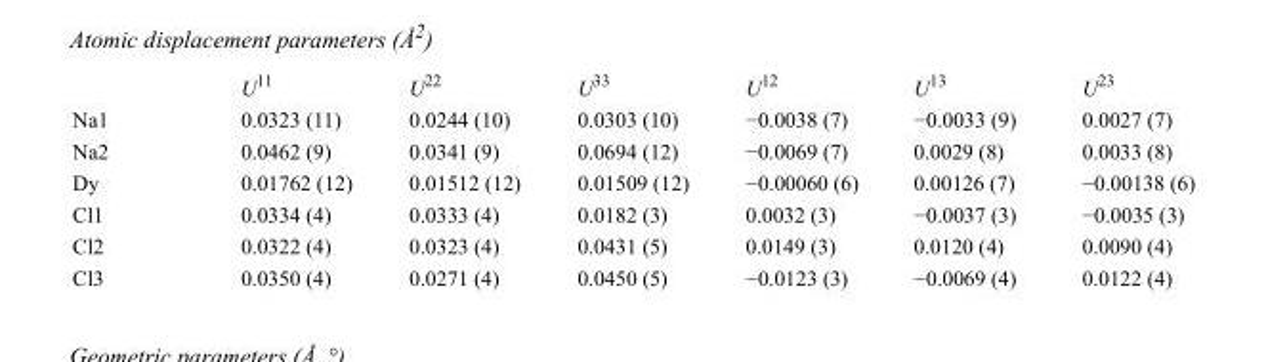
<table><thead><tr><td></td><td>U<sup>11</sup></td><td>U<sup>22</sup></td><td>U<sup>33</sup></td><td>U<sup>12</sup></td><td>U<sup>13</sup></td><td>U<sup>23</sup></td></tr></thead><tbody><tr><td>Na1</td><td>0.0323 (11)</td><td>0.0244 (10)</td><td>0.0303 (10)</td><td>−0.0038 (7)</td><td>−0.0033 (9)</td><td>0.0027 (7)</td></tr><tr><td>Na2</td><td>0.0462 (9)</td><td>0.0341 (9)</td><td>0.0694 (12)</td><td>−0.0069 (7)</td><td>0.0029 (8)</td><td>0.0033 (8)</td></tr><tr><td>Dy</td><td>0.01762 (12)</td><td>0.01512 (12)</td><td>0.01509 (12)</td><td>−0.00060 (6)</td><td>0.00126 (7)</td><td>−0.00138 (6)</td></tr><tr><td>Cl1</td><td>0.0334 (4)</td><td>0.0333 (4)</td><td>0.0182 (3)</td><td>0.0032 (3)</td><td>−0.0037 (3)</td><td>−0.0035 (3)</td></tr><tr><td>Cl2</td><td>0.0322 (4)</td><td>0.0323 (4)</td><td>0.0431 (5)</td><td>0.0149 (3)</td><td>0.0120 (4)</td><td>0.0090 (4)</td></tr><tr><td>Cl3</td><td>0.0350 (4)</td><td>0.0271 (4)</td><td>0.0450 (5)</td><td>−0.0123 (3)</td><td>−0.0069 (4)</td><td>0.0122 (4)</td></tr></tbody></table>